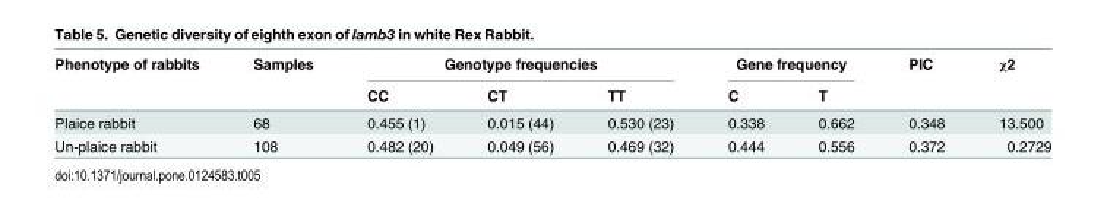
<table><thead><tr><td rowspan="2">Phenotype of rabbits</td><td rowspan="2">Samples</td><td colspan="3">Genotype frequencies</td><td colspan="2">Gene frequency</td><td rowspan="2">PIC</td><td rowspan="2">χ2</td></tr><tr><td>CC</td><td>CT</td><td>TT</td><td>C</td><td>T</td></tr></thead><tbody><tr><td>Plaice rabbit</td><td>68</td><td>0.455 (1)</td><td>0.015 (44)</td><td>0.530 (23)</td><td>0.338</td><td>0.662</td><td>0.348</td><td>13.500</td></tr><tr><td>Un-plaice rabbit</td><td>108</td><td>0.482 (20)</td><td>0.049 (56)</td><td>0.469 (32)</td><td>0.444</td><td>0.556</td><td>0.372</td><td>0.2729</td></tr></tbody></table>